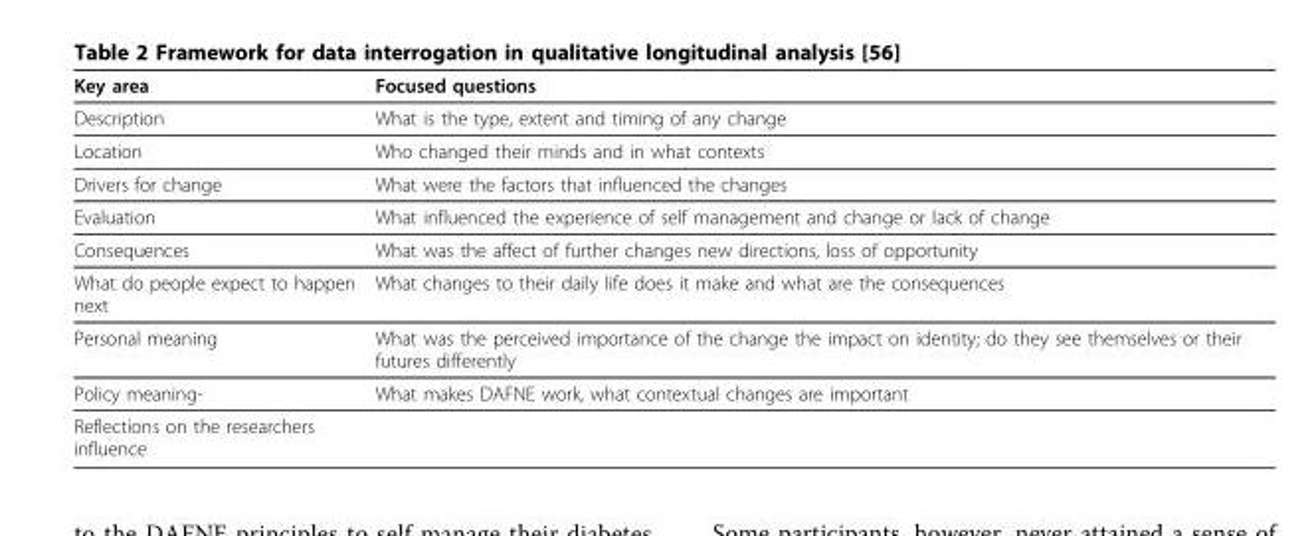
<table><thead><tr><td>Key area</td><td>Focused questions</td></tr></thead><tbody><tr><td>Description</td><td>What is the type, extent and timing of any change</td></tr><tr><td>Location</td><td>Who changed their minds and in what contexts</td></tr><tr><td>Drivers for change</td><td>What were the factors that influenced the changes</td></tr><tr><td>Evaluation</td><td>What influenced the experience of self management and change or lack of change</td></tr><tr><td>Consequences</td><td>What was the affect of further changes new directions, loss of opportunity</td></tr><tr><td>What do people expect to happen next</td><td>What changes to their daily life does it make and what are the consequences</td></tr><tr><td>Personal meaning</td><td>What was the perceived importance of the change the impact on identity; do they see themselves or their futures differently</td></tr><tr><td>Policy meaning-</td><td>What makes DAFNE work, what contextual changes are important</td></tr><tr><td>Reflections on the researchers influence</td><td></td></tr></tbody></table>